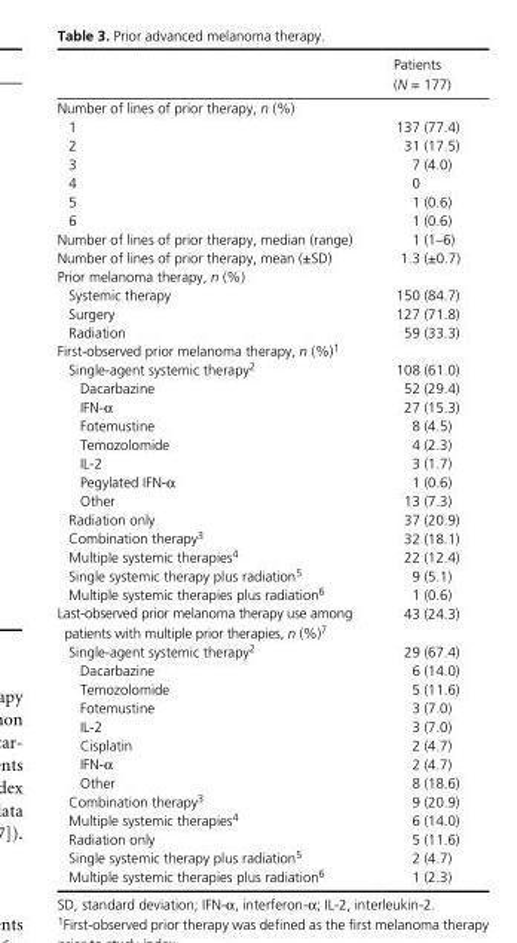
<table><thead><tr><td></td><td>Patients (N = 177)</td></tr></thead><tbody><tr><td colspan="2">Number of lines of prior therapy, n (%)</td></tr><tr><td>1</td><td>137 (77.4)</td></tr><tr><td>2</td><td>31 (17.5)</td></tr><tr><td>3</td><td>7 (4.0)</td></tr><tr><td>4</td><td>0</td></tr><tr><td>5</td><td>1 (0.6)</td></tr><tr><td>6</td><td>1 (0.6)</td></tr><tr><td>Number of lines of prior therapy, median (range)</td><td>1 (1–6)</td></tr><tr><td>Number of lines of prior therapy, mean (±SD)</td><td>1.3 (±0.7)</td></tr><tr><td colspan="2">Prior melanoma therapy, n (%)</td></tr><tr><td>Systemic therapy</td><td>150 (84.7)</td></tr><tr><td>Surgery</td><td>127 (71.8)</td></tr><tr><td>Radiation</td><td>59 (33.3)</td></tr><tr><td colspan="2">First- observed prior melanoma therapy, n (%)1</td></tr><tr><td>Single- agent systemic therapy2</td><td>108 (61.0)</td></tr><tr><td>Dacarbazine</td><td>52 (29.4)</td></tr><tr><td>IFN- α</td><td>27 (15.3)</td></tr><tr><td>Fotemustine</td><td>8 (4.5)</td></tr><tr><td>Temozolomide</td><td>4 (2.3)</td></tr><tr><td>IL- 2</td><td>3 (1.7)</td></tr><tr><td>Pegylated IFN- α</td><td>1 (0.6)</td></tr><tr><td>Other</td><td>13 (7.3)</td></tr><tr><td>Radiation only</td><td>37 (20.9)</td></tr><tr><td>Combination therapy3</td><td>32 (18.1)</td></tr><tr><td>Multiple systemic therapies4</td><td>22 (12.4)</td></tr><tr><td>Single systemic therapy plus radiation5</td><td>9 (5.1)</td></tr><tr><td>Multiple systemic therapies plus radiation6</td><td>1 (0.6)</td></tr><tr><td>Last- observed prior melanoma therapy use among patients with multiple prior therapies, n (%)7</td><td>43 (24.3)</td></tr><tr><td>Single- agent systemic therapy2</td><td>29 (67.4)</td></tr><tr><td>Dacarbazine</td><td>6 (14.0)</td></tr><tr><td>Temozolomide</td><td>5 (11.6)</td></tr><tr><td>Fotemustine</td><td>3 (7.0)</td></tr><tr><td>IL- 2</td><td>3 (7.0)</td></tr><tr><td>Cisplatin</td><td>2 (4.7)</td></tr><tr><td>IFN- α</td><td>2 (4.7)</td></tr><tr><td>Other</td><td>8 (18.6)</td></tr><tr><td>Combination therapy3</td><td>9 (20.9)</td></tr><tr><td>Multiple systemic therapies4</td><td>6 (14.0)</td></tr><tr><td>Radiation only</td><td>5 (11.6)</td></tr><tr><td>Single systemic therapy plus radiation5</td><td>2 (4.7)</td></tr><tr><td>Multiple systemic therapies plus radiation6</td><td>1 (2.3)</td></tr></tbody></table>